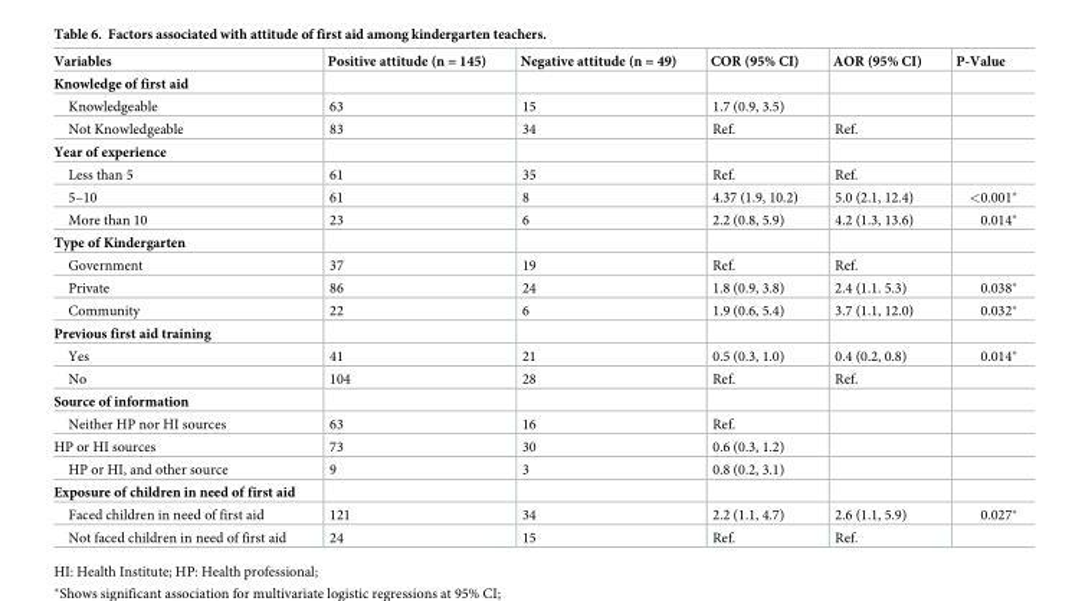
<table><thead><tr><td>Variables</td><td>Positive attitude (n = 145)</td><td>Negative attitude (n = 49)</td><td>COR (95% CI)</td><td>AOR (95% CI)</td><td>P-Value</td></tr></thead><tbody><tr><td colspan="6">Knowledge of first aid</td></tr><tr><td>Knowledgeable</td><td>63</td><td>15</td><td>1.7 (0.9, 3.5)</td><td></td><td></td></tr><tr><td>Not Knowledgeable</td><td>83</td><td>34</td><td>Ref.</td><td>Ref.</td><td></td></tr><tr><td colspan="6">Year of experience</td></tr><tr><td>Less than 5</td><td>61</td><td>35</td><td>Ref.</td><td>Ref.</td><td></td></tr><tr><td>5–10</td><td>61</td><td>8</td><td>4.37 (1.9, 10.2)</td><td>5.0 (2.1, 12.4)</td><td>&lt;0.001*</td></tr><tr><td>More than 10</td><td>23</td><td>6</td><td>2.2 (0.8, 5.9)</td><td>4.2 (1.3, 13.6)</td><td>0.014*</td></tr><tr><td colspan="6">Type of Kindergarten</td></tr><tr><td>Government</td><td>37</td><td>19</td><td>Ref.</td><td>Ref.</td><td></td></tr><tr><td>Private</td><td>86</td><td>24</td><td>1.8 (0.9, 3.8)</td><td>2.4 (1.1. 5.3)</td><td>0.038*</td></tr><tr><td>Community</td><td>22</td><td>6</td><td>1.9 (0.6, 5.4)</td><td>3.7 (1.1, 12.0)</td><td>0.032*</td></tr><tr><td colspan="6">Previous first aid training</td></tr><tr><td>Yes</td><td>41</td><td>21</td><td>0.5 (0.3, 1.0)</td><td>0.4 (0.2, 0.8)</td><td>0.014*</td></tr><tr><td>No</td><td>104</td><td>28</td><td>Ref.</td><td>Ref.</td><td></td></tr><tr><td colspan="6">Source of information</td></tr><tr><td>Neither HP nor HI sources</td><td>63</td><td>16</td><td>Ref.</td><td></td><td></td></tr><tr><td>HP or HI sources</td><td>73</td><td>30</td><td>0.6 (0.3, 1.2)</td><td></td><td></td></tr><tr><td>HP or HI, and other source</td><td>9</td><td>3</td><td>0.8 (0.2, 3.1)</td><td></td><td></td></tr><tr><td colspan="6">Exposure of children in need of first aid</td></tr><tr><td>Faced children in need of first aid</td><td>121</td><td>34</td><td>2.2 (1.1, 4.7)</td><td>2.6 (1.1, 5.9)</td><td>0.027*</td></tr><tr><td>Not faced children in need of first aid</td><td>24</td><td>15</td><td>Ref.</td><td>Ref.</td><td></td></tr></tbody></table>